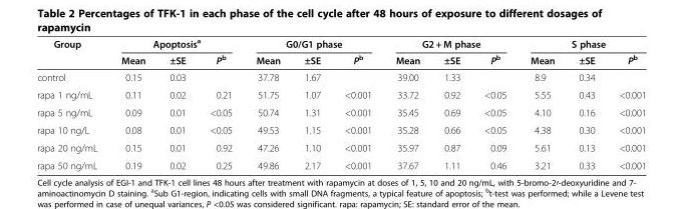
<table><thead><tr><td rowspan="2">Group</td><td colspan="3">Apoptosis<sup>a</sup></td><td colspan="3">G0/G1 phase</td><td colspan="3">G2 + M phase</td><td colspan="3">S phase</td></tr><tr><td>Mean</td><td>±SE</td><td>P<sup>b</sup></td><td>Mean</td><td>±SE</td><td>P<sup>b</sup></td><td>Mean</td><td>±SE</td><td>P<sup>b</sup></td><td>Mean</td><td>±SE</td><td>P<sup>b</sup></td></tr></thead><tbody><tr><td>control</td><td>0.15</td><td>0.03</td><td></td><td>37.78</td><td>1.67</td><td></td><td>39.00</td><td>1.33</td><td></td><td>8.9</td><td>0.34</td><td></td></tr><tr><td>rapa 1 ng/mL</td><td>0.11</td><td>0.02</td><td>0.21</td><td>51.75</td><td>1.07</td><td>&lt;0.001</td><td>33.72</td><td>0.92</td><td>&lt;0.05</td><td>5.55</td><td>0.43</td><td>&lt;0.001</td></tr><tr><td>rapa 5 ng/mL</td><td>0.09</td><td>0.01</td><td>&lt;0.05</td><td>50.74</td><td>1.31</td><td>&lt;0.001</td><td>35.45</td><td>0.69</td><td>&lt;0.05</td><td>4.10</td><td>0.16</td><td>&lt;0.001</td></tr><tr><td>rapa 10 ng/L</td><td>0.08</td><td>0.01</td><td>&lt;0.05</td><td>49.53</td><td>1.15</td><td>&lt;0.001</td><td>35.28</td><td>0.66</td><td>&lt;0.05</td><td>4.38</td><td>0.30</td><td>&lt;0.001</td></tr><tr><td>rapa 20 ng/mL</td><td>0.15</td><td>0.01</td><td>0.92</td><td>47.26</td><td>1.10</td><td>&lt;0.001</td><td>35.97</td><td>0.87</td><td>0.09</td><td>5.61</td><td>0.13</td><td>&lt;0.001</td></tr><tr><td>rapa 50 ng/mL</td><td>0.19</td><td>0.02</td><td>0.25</td><td>49.86</td><td>2.17</td><td>&lt;0.001</td><td>37.67</td><td>1.11</td><td>0.46</td><td>3.21</td><td>0.33</td><td>&lt;0.001</td></tr></tbody></table>